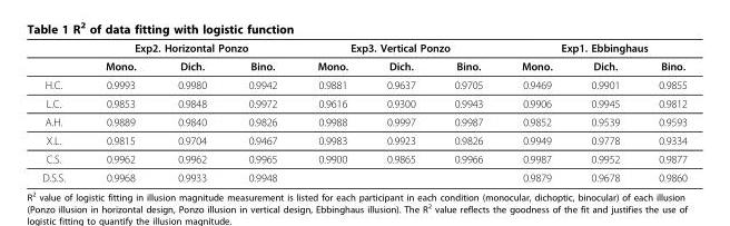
<table><thead><tr><td rowspan="2"></td><td colspan="3">Exp2. Horizontal Ponzo</td><td colspan="3">Exp3. Vertical Ponzo</td><td colspan="3">Exp1. Ebbinghaus</td></tr><tr><td>Mono.</td><td>Dich.</td><td>Bino.</td><td>Mono.</td><td>Dich.</td><td>Bino.</td><td>Mono.</td><td>Dich.</td><td>Bino.</td></tr></thead><tbody><tr><td>H.C.</td><td>0.9993</td><td>0.9980</td><td>0.9942</td><td>0.9881</td><td>0.9637</td><td>0.9705</td><td>0.9469</td><td>0.9901</td><td>0.9855</td></tr><tr><td>L.C.</td><td>0.9853</td><td>0.9848</td><td>0.9972</td><td>0.9616</td><td>0.9300</td><td>0.9943</td><td>0.9906</td><td>0.9945</td><td>0.9812</td></tr><tr><td>A.H.</td><td>0.9889</td><td>0.9840</td><td>0.9826</td><td>0.9988</td><td>0.9997</td><td>0.9987</td><td>0.9852</td><td>0.9539</td><td>0.9593</td></tr><tr><td>X.L.</td><td>0.9815</td><td>0.9704</td><td>0.9467</td><td>0.9983</td><td>0.9923</td><td>0.9826</td><td>0.9949</td><td>0.9778</td><td>0.9334</td></tr><tr><td>C.S.</td><td>0.9962</td><td>0.9962</td><td>0.9965</td><td>0.9900</td><td>0.9865</td><td>0.9966</td><td>0.9987</td><td>0.9952</td><td>0.9877</td></tr><tr><td>D.S.S.</td><td>0.9968</td><td>0.9933</td><td>0.9948</td><td></td><td></td><td></td><td>0.9879</td><td>0.9678</td><td>0.9860</td></tr></tbody></table>